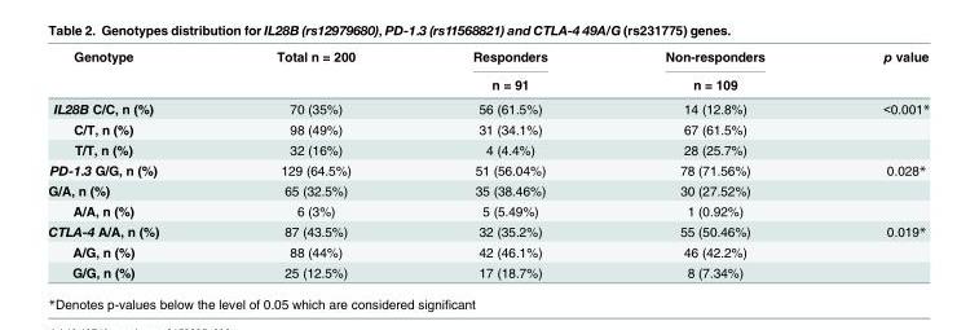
<table><thead><tr><td rowspan="2">Genotype</td><td rowspan="2">Total n = 200</td><td rowspan="2">Responders n = 91</td><td rowspan="2">Non-responders n = 109</td><td rowspan="2">p value</td></tr><tr></tr></thead><tbody><tr><td>IL28B C/C, n (%)</td><td>70 (35%)</td><td>56 (61.5%)</td><td>14 (12.8%)</td><td>&lt;0.001*</td></tr><tr><td>C/T, n (%)</td><td>98 (49%)</td><td>31 (34.1%)</td><td>67 (61.5%)</td><td></td></tr><tr><td>T/T, n (%)</td><td>32 (16%)</td><td>4 (4.4%)</td><td>28 (25.7%)</td><td></td></tr><tr><td>PD-1.3 G/G, n (%)</td><td>129 (64.5%)</td><td>51 (56.04%)</td><td>78 (71.56%)</td><td>0.028*</td></tr><tr><td>G/A, n (%)</td><td>65 (32.5%)</td><td>35 (38.46%)</td><td>30 (27.52%)</td><td></td></tr><tr><td>A/A, n (%)</td><td>6 (3%)</td><td>5 (5.49%)</td><td>1 (0.92%)</td><td></td></tr><tr><td>CTLA-4 A/A, n (%)</td><td>87 (43.5%)</td><td>32 (35.2%)</td><td>55 (50.46%)</td><td>0.019*</td></tr><tr><td>A/G, n (%)</td><td>88 (44%)</td><td>42 (46.1%)</td><td>46 (42.2%)</td><td></td></tr><tr><td>G/G, n (%)</td><td>25 (12.5%)</td><td>17 (18.7%)</td><td>8 (7.34%)</td><td></td></tr></tbody></table>